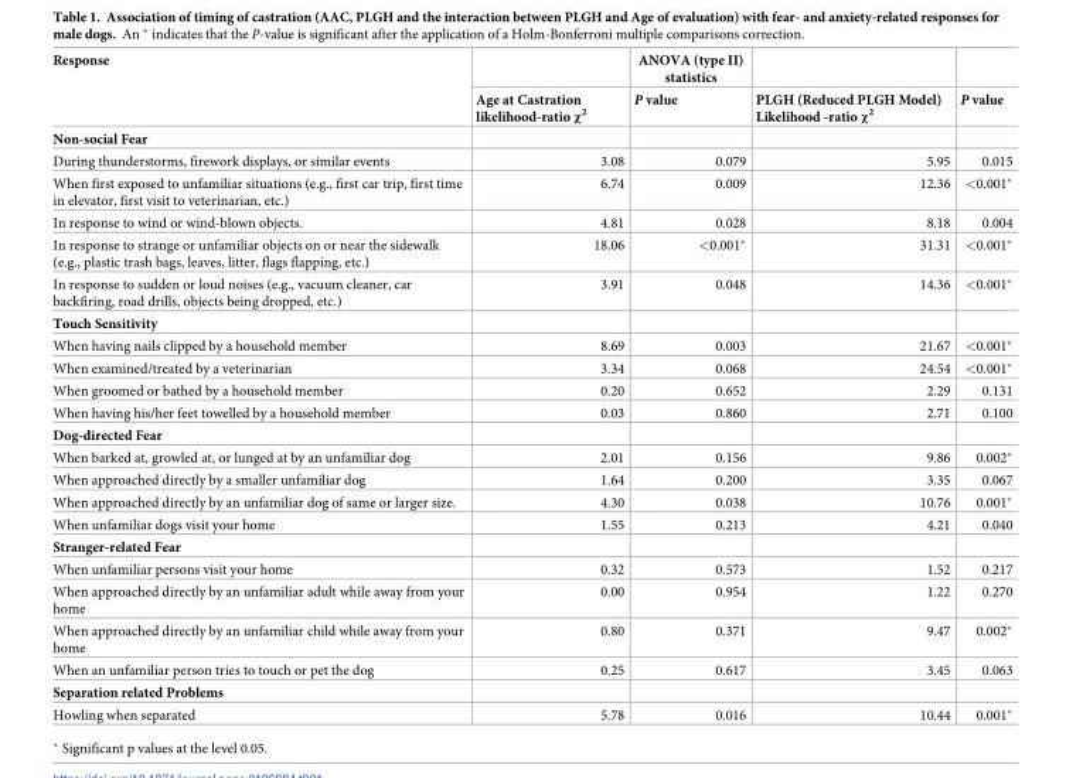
<table><thead><tr><td rowspan="2">Response</td><td rowspan="2">Age at Castration likelihood-ratio χ<sup>2</sup></td><td rowspan="2">ANOVA (type II) statistics P value</td><td rowspan="2">PLGH (Reduced PLGH Model) Likelihood -ratio χ<sup>2</sup></td><td rowspan="2">P value</td></tr><tr></tr></thead><tbody><tr><td colspan="5">Non-social Fear</td></tr><tr><td>During thunderstorms, firework displays, or similar events</td><td>3.08</td><td>0.079</td><td>5.95</td><td>0.015</td></tr><tr><td>When first exposed to unfamiliar situations (e.g., first car trip, first time in elevator, first visit to veterinarian, etc.)</td><td>6.74</td><td>0.009</td><td>12.36</td><td>&lt;0.001*</td></tr><tr><td>In response to wind or wind-blown objects.</td><td>4.81</td><td>0.028</td><td>8.18</td><td>0.004</td></tr><tr><td>In response to strange or unfamiliar objects on or near the sidewalk (e.g., plastic trash bags, leaves, litter, flags flapping, etc.)</td><td>18.06</td><td>&lt;0.001*</td><td>31.31</td><td>&lt;0.001*</td></tr><tr><td>In response to sudden or loud noises (e.g., vacuum cleaner, car backfiring, road drills, objects being dropped, etc.)</td><td>3.91</td><td>0.048</td><td>14.36</td><td>&lt;0.001*</td></tr><tr><td colspan="5">Touch Sensitivity</td></tr><tr><td>When having nails clipped by a household member</td><td>8.69</td><td>0.003</td><td>21.67</td><td>&lt;0.001*</td></tr><tr><td>When examined/treated by a veterinarian</td><td>3.34</td><td>0.068</td><td>24.54</td><td>&lt;0.001*</td></tr><tr><td>When groomed or bathed by a household member</td><td>0.20</td><td>0.652</td><td>2.29</td><td>0.131</td></tr><tr><td>When having his/her feet towelled by a household member</td><td>0.03</td><td>0.860</td><td>2.71</td><td>0.100</td></tr><tr><td colspan="5">Dog-directed Fear</td></tr><tr><td>When barked at, growled at, or lunged at by an unfamiliar dog</td><td>2.01</td><td>0.156</td><td>9.86</td><td>0.002*</td></tr><tr><td>When approached directly by a smaller unfamiliar dog</td><td>1.64</td><td>0.200</td><td>3.35</td><td>0.067</td></tr><tr><td>When approached directly by an unfamiliar dog of same or larger size.</td><td>4.30</td><td>0.038</td><td>10.76</td><td>0.001*</td></tr><tr><td>When unfamiliar dogs visit your home</td><td>1.55</td><td>0.213</td><td>4.21</td><td>0.040</td></tr><tr><td colspan="5">Stranger-related Fear</td></tr><tr><td>When unfamiliar persons visit your home</td><td>0.32</td><td>0.573</td><td>1.52</td><td>0.217</td></tr><tr><td>When approached directly by an unfamiliar adult while away from your home</td><td>0.00</td><td>0.954</td><td>1.22</td><td>0.270</td></tr><tr><td>When approached directly by an unfamiliar child while away from your home</td><td>0.80</td><td>0.371</td><td>9.47</td><td>0.002*</td></tr><tr><td>When an unfamiliar person tries to touch or pet the dog</td><td>0.25</td><td>0.617</td><td>3.45</td><td>0.063</td></tr><tr><td colspan="5">Separation related Problems</td></tr><tr><td>Howling when separated</td><td>5.78</td><td>0.016</td><td>10.44</td><td>0.001*</td></tr></tbody></table>